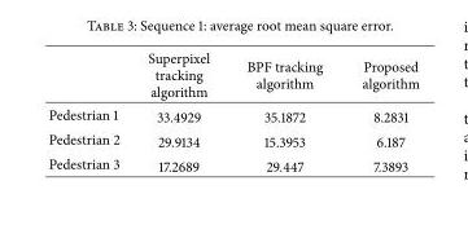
<table><thead><tr><td></td><td>Superpixel tracking algorithm</td><td>BPF tracking algorithm</td><td>Proposed algorithm</td></tr></thead><tbody><tr><td>Pedestrian 1</td><td>33.4929</td><td>35.1872</td><td>8.2831</td></tr><tr><td>Pedestrian 2</td><td>29.9134</td><td>15.3953</td><td>6.187</td></tr><tr><td>Pedestrian 3</td><td>17.2689</td><td>29.447</td><td>7.3893</td></tr></tbody></table>